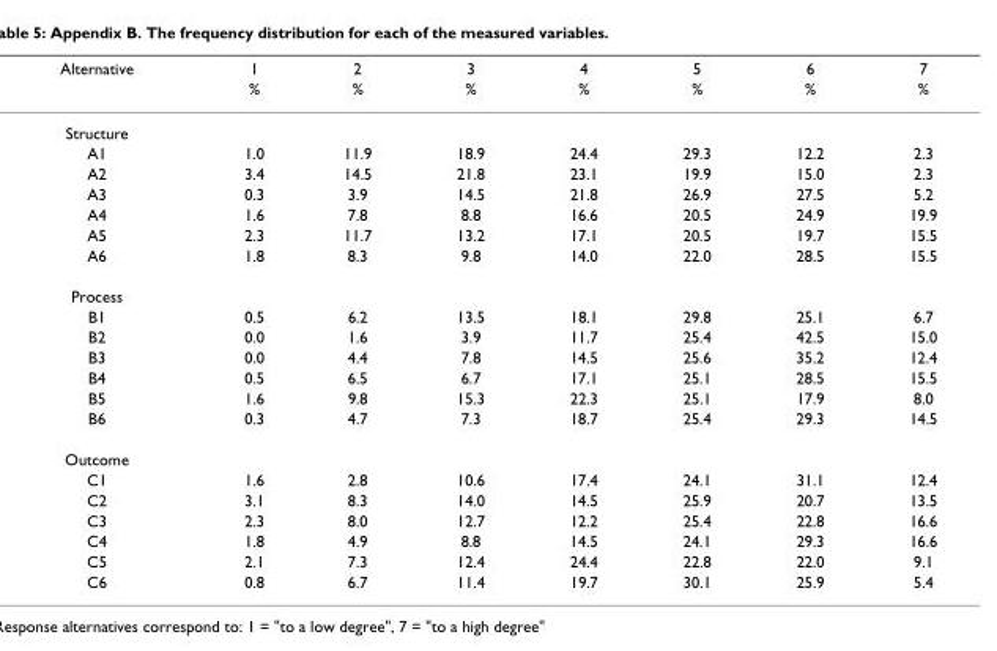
<table><thead><tr><td rowspan="2">Alternative</td><td rowspan="2">1 %</td><td rowspan="2">2 %</td><td rowspan="2">3 %</td><td rowspan="2">4 %</td><td rowspan="2">5 %</td><td rowspan="2">6 %</td><td rowspan="2">7 %</td></tr><tr></tr></thead><tbody><tr><td colspan="8">Structure</td></tr><tr><td>A1</td><td>1.0</td><td>11.9</td><td>18.9</td><td>24.4</td><td>29.3</td><td>12.2</td><td>2.3</td></tr><tr><td>A2</td><td>3.4</td><td>14.5</td><td>21.8</td><td>23.1</td><td>19.9</td><td>15.0</td><td>2.3</td></tr><tr><td>A3</td><td>0.3</td><td>3.9</td><td>14.5</td><td>21.8</td><td>26.9</td><td>27.5</td><td>5.2</td></tr><tr><td>A4</td><td>1.6</td><td>7.8</td><td>8.8</td><td>16.6</td><td>20.5</td><td>24.9</td><td>19.9</td></tr><tr><td>A5</td><td>2.3</td><td>11.7</td><td>13.2</td><td>17.1</td><td>20.5</td><td>19.7</td><td>15.5</td></tr><tr><td>A6</td><td>1.8</td><td>8.3</td><td>9.8</td><td>14.0</td><td>22.0</td><td>28.5</td><td>15.5</td></tr><tr><td colspan="8">Process</td></tr><tr><td>B1</td><td>0.5</td><td>6.2</td><td>13.5</td><td>18.1</td><td>29.8</td><td>25.1</td><td>6.7</td></tr><tr><td>B2</td><td>0.0</td><td>1.6</td><td>3.9</td><td>11.7</td><td>25.4</td><td>42.5</td><td>15.0</td></tr><tr><td>B3</td><td>0.0</td><td>4.4</td><td>7.8</td><td>14.5</td><td>25.6</td><td>35.2</td><td>12.4</td></tr><tr><td>B4</td><td>0.5</td><td>6.5</td><td>6.7</td><td>17.1</td><td>25.1</td><td>28.5</td><td>15.5</td></tr><tr><td>B5</td><td>1.6</td><td>9.8</td><td>15.3</td><td>22.3</td><td>25.1</td><td>17.9</td><td>8.0</td></tr><tr><td>B6</td><td>0.3</td><td>4.7</td><td>7.3</td><td>18.7</td><td>25.4</td><td>29.3</td><td>14.5</td></tr><tr><td colspan="8">Outcome</td></tr><tr><td>C1</td><td>1.6</td><td>2.8</td><td>10.6</td><td>17.4</td><td>24.1</td><td>31.1</td><td>12.4</td></tr><tr><td>C2</td><td>3.1</td><td>8.3</td><td>14.0</td><td>14.5</td><td>25.9</td><td>20.7</td><td>13.5</td></tr><tr><td>C3</td><td>2.3</td><td>8.0</td><td>12.7</td><td>12.2</td><td>25.4</td><td>22.8</td><td>16.6</td></tr><tr><td>C4</td><td>1.8</td><td>4.9</td><td>8.8</td><td>14.5</td><td>24.1</td><td>29.3</td><td>16.6</td></tr><tr><td>C5</td><td>2.1</td><td>7.3</td><td>12.4</td><td>24.4</td><td>22.8</td><td>22.0</td><td>9.1</td></tr><tr><td>C6</td><td>0.8</td><td>6.7</td><td>11.4</td><td>19.7</td><td>30.1</td><td>25.9</td><td>5.4</td></tr></tbody></table>